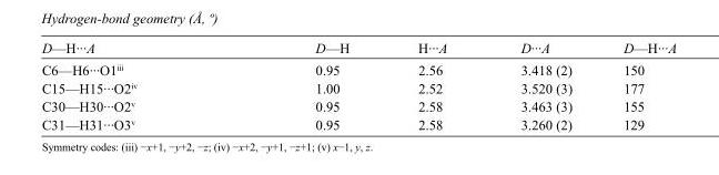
<table><tbody><tr><td>D—H···A</td><td>D—H</td><td>H···A</td><td>D···A</td><td>D—H···A</td></tr><tr><td>C6—H6···O1<sup>iii</sup></td><td>0.95</td><td>2.56</td><td>3.418 (2)</td><td>150</td></tr><tr><td>C15—H15···O2<sup>iv</sup></td><td>1.00</td><td>2.52</td><td>3.520 (3)</td><td>177</td></tr><tr><td>C30—H30···O2<sup>v</sup></td><td>0.95</td><td>2.58</td><td>3.463 (3)</td><td>155</td></tr><tr><td>C31—H31···O3<sup>v</sup></td><td>0.95</td><td>2.58</td><td>3.260 (2)</td><td>129</td></tr></tbody></table>